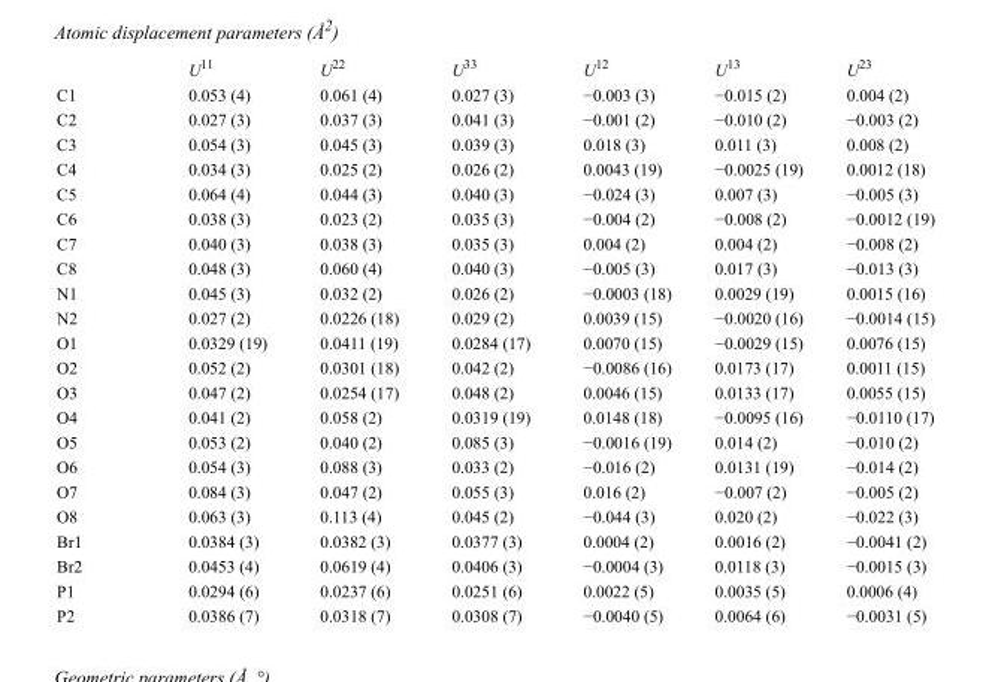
<table><thead><tr><td></td><td>U<sup>11</sup></td><td>U<sup>22</sup></td><td>U<sup>33</sup></td><td>U<sup>12</sup></td><td>U<sup>13</sup></td><td>U<sup>23</sup></td></tr></thead><tbody><tr><td>C1</td><td>0.053 (4)</td><td>0.061 (4)</td><td>0.027 (3)</td><td>−0.003 (3)</td><td>−0.015 (2)</td><td>0.004 (2)</td></tr><tr><td>C2</td><td>0.027 (3)</td><td>0.037 (3)</td><td>0.041 (3)</td><td>−0.001 (2)</td><td>−0.010 (2)</td><td>−0.003 (2)</td></tr><tr><td>C3</td><td>0.054 (3)</td><td>0.045 (3)</td><td>0.039 (3)</td><td>0.018 (3)</td><td>0.011 (3)</td><td>0.008 (2)</td></tr><tr><td>C4</td><td>0.034 (3)</td><td>0.025 (2)</td><td>0.026 (2)</td><td>0.0043 (19)</td><td>−0.0025 (19)</td><td>0.0012 (18)</td></tr><tr><td>C5</td><td>0.064 (4)</td><td>0.044 (3)</td><td>0.040 (3)</td><td>−0.024 (3)</td><td>0.007 (3)</td><td>−0.005 (3)</td></tr><tr><td>C6</td><td>0.038 (3)</td><td>0.023 (2)</td><td>0.035 (3)</td><td>−0.004 (2)</td><td>−0.008 (2)</td><td>−0.0012 (19)</td></tr><tr><td>C7</td><td>0.040 (3)</td><td>0.038 (3)</td><td>0.035 (3)</td><td>0.004 (2)</td><td>0.004 (2)</td><td>−0.008 (2)</td></tr><tr><td>C8</td><td>0.048 (3)</td><td>0.060 (4)</td><td>0.040 (3)</td><td>−0.005 (3)</td><td>0.017 (3)</td><td>−0.013 (3)</td></tr><tr><td>N1</td><td>0.045 (3)</td><td>0.032 (2)</td><td>0.026 (2)</td><td>−0.0003 (18)</td><td>0.0029 (19)</td><td>0.0015 (16)</td></tr><tr><td>N2</td><td>0.027 (2)</td><td>0.0226 (18)</td><td>0.029 (2)</td><td>0.0039 (15)</td><td>−0.0020 (16)</td><td>−0.0014 (15)</td></tr><tr><td>O1</td><td>0.0329 (19)</td><td>0.0411 (19)</td><td>0.0284 (17)</td><td>0.0070 (15)</td><td>−0.0029 (15)</td><td>0.0076 (15)</td></tr><tr><td>O2</td><td>0.052 (2)</td><td>0.0301 (18)</td><td>0.042 (2)</td><td>−0.0086 (16)</td><td>0.0173 (17)</td><td>0.0011 (15)</td></tr><tr><td>O3</td><td>0.047 (2)</td><td>0.0254 (17)</td><td>0.048 (2)</td><td>0.0046 (15)</td><td>0.0133 (17)</td><td>0.0055 (15)</td></tr><tr><td>O4</td><td>0.041 (2)</td><td>0.058 (2)</td><td>0.0319 (19)</td><td>0.0148 (18)</td><td>−0.0095 (16)</td><td>−0.0110 (17)</td></tr><tr><td>O5</td><td>0.053 (2)</td><td>0.040 (2)</td><td>0.085 (3)</td><td>−0.0016 (19)</td><td>0.014 (2)</td><td>−0.010 (2)</td></tr><tr><td>O6</td><td>0.054 (3)</td><td>0.088 (3)</td><td>0.033 (2)</td><td>−0.016 (2)</td><td>0.0131 (19)</td><td>−0.014 (2)</td></tr><tr><td>O7</td><td>0.084 (3)</td><td>0.047 (2)</td><td>0.055 (3)</td><td>0.016 (2)</td><td>−0.007 (2)</td><td>−0.005 (2)</td></tr><tr><td>O8</td><td>0.063 (3)</td><td>0.113 (4)</td><td>0.045 (2)</td><td>−0.044 (3)</td><td>0.020 (2)</td><td>−0.022 (3)</td></tr><tr><td>Br1</td><td>0.0384 (3)</td><td>0.0382 (3)</td><td>0.0377 (3)</td><td>0.0004 (2)</td><td>0.0016 (2)</td><td>−0.0041 (2)</td></tr><tr><td>Br2</td><td>0.0453 (4)</td><td>0.0619 (4)</td><td>0.0406 (3)</td><td>−0.0004 (3)</td><td>0.0118 (3)</td><td>−0.0015 (3)</td></tr><tr><td>P1</td><td>0.0294 (6)</td><td>0.0237 (6)</td><td>0.0251 (6)</td><td>0.0022 (5)</td><td>0.0035 (5)</td><td>0.0006 (4)</td></tr><tr><td>P2</td><td>0.0386 (7)</td><td>0.0318 (7)</td><td>0.0308 (7)</td><td>−0.0040 (5)</td><td>0.0064 (6)</td><td>−0.0031 (5)</td></tr></tbody></table>